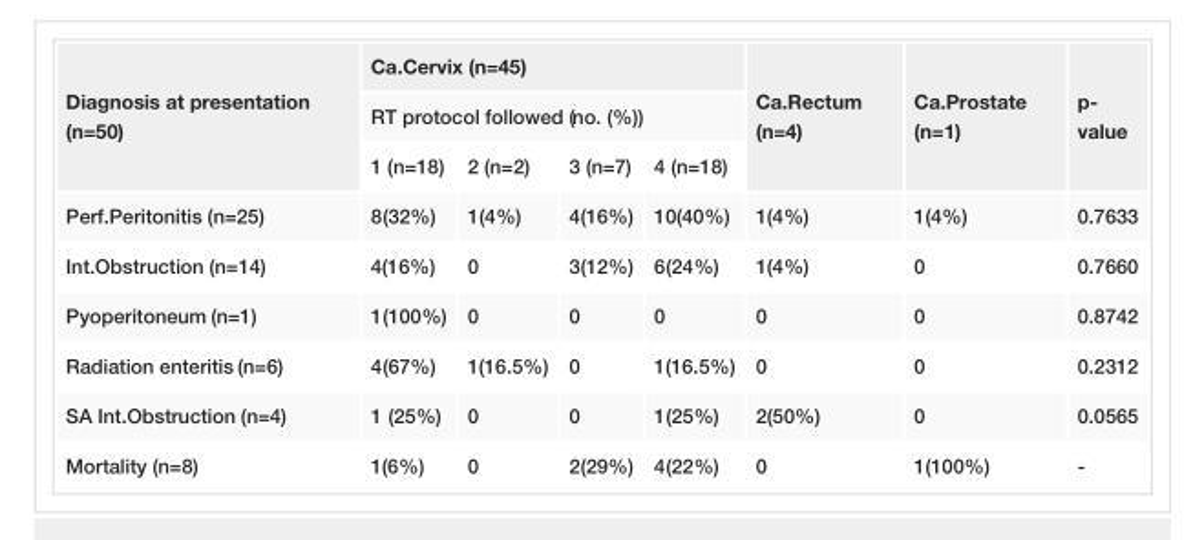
<table><tbody><tr><td rowspan="3">Diagnosis at presentation (n=50)</td><td colspan="4">Ca.Cervix (n=45)</td><td rowspan="3">Ca.Rectum (n=4)</td><td rowspan="3">Ca.Prostate (n=1)</td><td rowspan="3">p- value</td></tr><tr><td colspan="4">RT protocol followed (no. (%))</td></tr><tr><td>1 (n=18)</td><td>2 (n=2)</td><td>3 (n=7)</td><td>4 (n=18)</td></tr><tr><td>Perf.Peritonitis (n=25)</td><td>8(32%)</td><td>1(4%)</td><td>4(16%)</td><td>10(40%)</td><td>1(4%)</td><td>1(4%)</td><td>0.7633</td></tr><tr><td>Int.Obstruction (n=14)</td><td>4(16%)</td><td>0</td><td>3(12%)</td><td>6(24%)</td><td>1(4%)</td><td>0</td><td>0.7660</td></tr><tr><td>Pyoperitoneum (n=1)</td><td>1(100%)</td><td>0</td><td>0</td><td>0</td><td>0</td><td>0</td><td>0.8742</td></tr><tr><td>Radiation enteritis (n=6)</td><td>4(67%)</td><td>1(16.5%)</td><td>0</td><td>1(16.5%)</td><td>0</td><td>0</td><td>0.2312</td></tr><tr><td>SA Int.Obstruction (n=4)</td><td>1 (25%)</td><td>0</td><td>0</td><td>1(25%)</td><td>2(50%)</td><td>0</td><td>0.0565</td></tr><tr><td>Mortality (n=8)</td><td>1(6%)</td><td>0</td><td>2(29%)</td><td>4(22%)</td><td>0</td><td>1(100%)</td><td>-</td></tr></tbody></table>